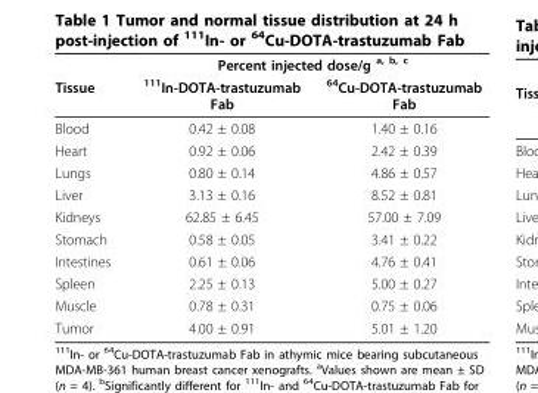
<table><thead><tr><td rowspan="2">Tissue</td><td colspan="2">Percent injected dose/g <sup>a, b, c</sup></td></tr><tr><td><sup>111</sup>In-DOTA-trastuzumab Fab</td><td><sup>64</sup>Cu-DOTA-trastuzumab Fab</td></tr></thead><tbody><tr><td>Blood</td><td>0.42 ± 0.08</td><td>1.40 ± 0.16</td></tr><tr><td>Heart</td><td>0.92 ± 0.06</td><td>2.42 ± 0.39</td></tr><tr><td>Lungs</td><td>0.80 ± 0.14</td><td>4.86 ± 0.57</td></tr><tr><td>Liver</td><td>3.13 ± 0.16</td><td>8.52 ± 0.81</td></tr><tr><td>Kidneys</td><td>62.85 ± 6.45</td><td>57.00 ± 7.09</td></tr><tr><td>Stomach</td><td>0.58 ± 0.05</td><td>3.41 ± 0.22</td></tr><tr><td>Intestines</td><td>0.61 ± 0.06</td><td>4.76 ± 0.41</td></tr><tr><td>Spleen</td><td>2.25 ± 0.13</td><td>5.00 ± 0.27</td></tr><tr><td>Muscle</td><td>0.78 ± 0.31</td><td>0.75 ± 0.06</td></tr><tr><td>Tumor</td><td>4.00 ± 0.91</td><td>5.01 ± 1.20</td></tr></tbody></table>